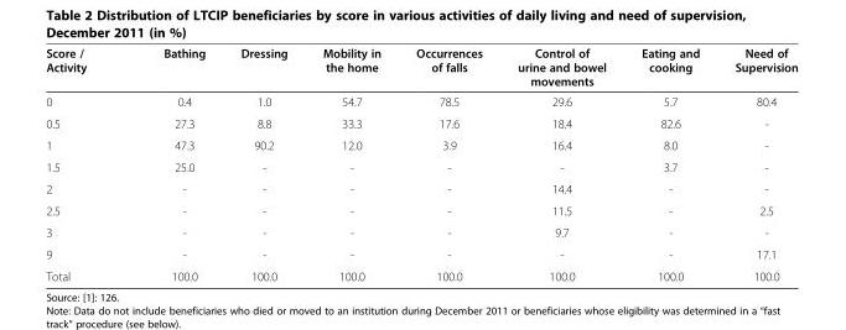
<table><thead><tr><td>Score / Activity</td><td>Bathing</td><td>Dressing</td><td>Mobility in the home</td><td>Occurrences of falls</td><td>Control of urine and bowel movements</td><td>Eating and cooking</td><td>Need of Supervision</td></tr></thead><tbody><tr><td>0</td><td>0.4</td><td>1.0</td><td>54.7</td><td>78.5</td><td>29.6</td><td>5.7</td><td>80.4</td></tr><tr><td>0.5</td><td>27.3</td><td>8.8</td><td>33.3</td><td>17.6</td><td>18.4</td><td>82.6</td><td>-</td></tr><tr><td>1</td><td>47.3</td><td>90.2</td><td>12.0</td><td>3.9</td><td>16.4</td><td>8.0</td><td>-</td></tr><tr><td>1.5</td><td>25.0</td><td>-</td><td>-</td><td>-</td><td>-</td><td>3.7</td><td>-</td></tr><tr><td>2</td><td>-</td><td>-</td><td>-</td><td>-</td><td>14.4</td><td>-</td><td>-</td></tr><tr><td>2.5</td><td>-</td><td>-</td><td>-</td><td>-</td><td>11.5</td><td>-</td><td>2.5</td></tr><tr><td>3</td><td>-</td><td>-</td><td>-</td><td>-</td><td>9.7</td><td>-</td><td>-</td></tr><tr><td>9</td><td>-</td><td>-</td><td>-</td><td>-</td><td>-</td><td>-</td><td>17.1</td></tr><tr><td>Total</td><td>100.0</td><td>100.0</td><td>100.0</td><td>100.0</td><td>100.0</td><td>100.0</td><td>100.0</td></tr></tbody></table>